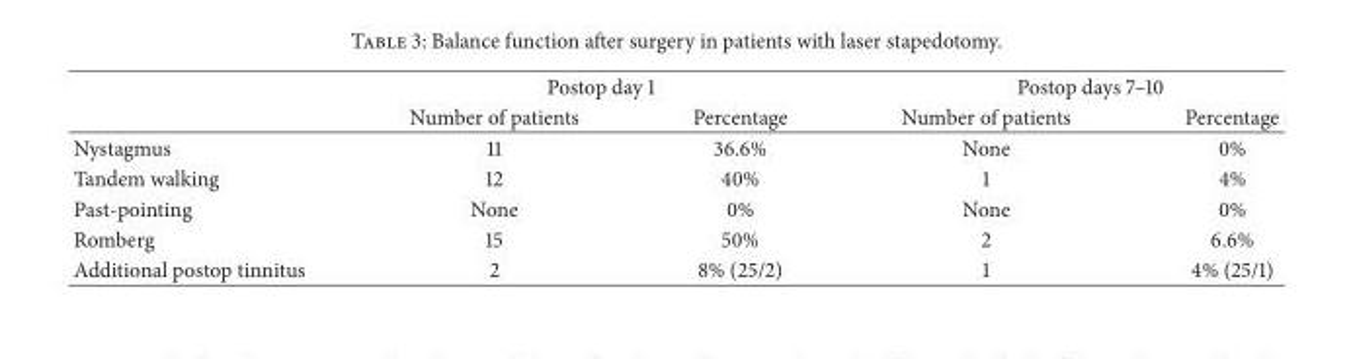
<table><thead><tr><td rowspan="2"></td><td colspan="2">Postop day 1</td><td colspan="2">Postop days 7–10</td></tr><tr><td>Number of patients</td><td>Percentage</td><td>Number of patients</td><td>Percentage</td></tr></thead><tbody><tr><td>Nystagmus</td><td>11</td><td>36.6%</td><td>None</td><td>0%</td></tr><tr><td>Tandem walking</td><td>12</td><td>40%</td><td>1</td><td>4%</td></tr><tr><td>Past-pointing</td><td>None</td><td>0%</td><td>None</td><td>0%</td></tr><tr><td>Romberg</td><td>15</td><td>50%</td><td>2</td><td>6.6%</td></tr><tr><td>Additional postop tinnitus</td><td>2</td><td>8% (25/2)</td><td>1</td><td>4% (25/1)</td></tr></tbody></table>